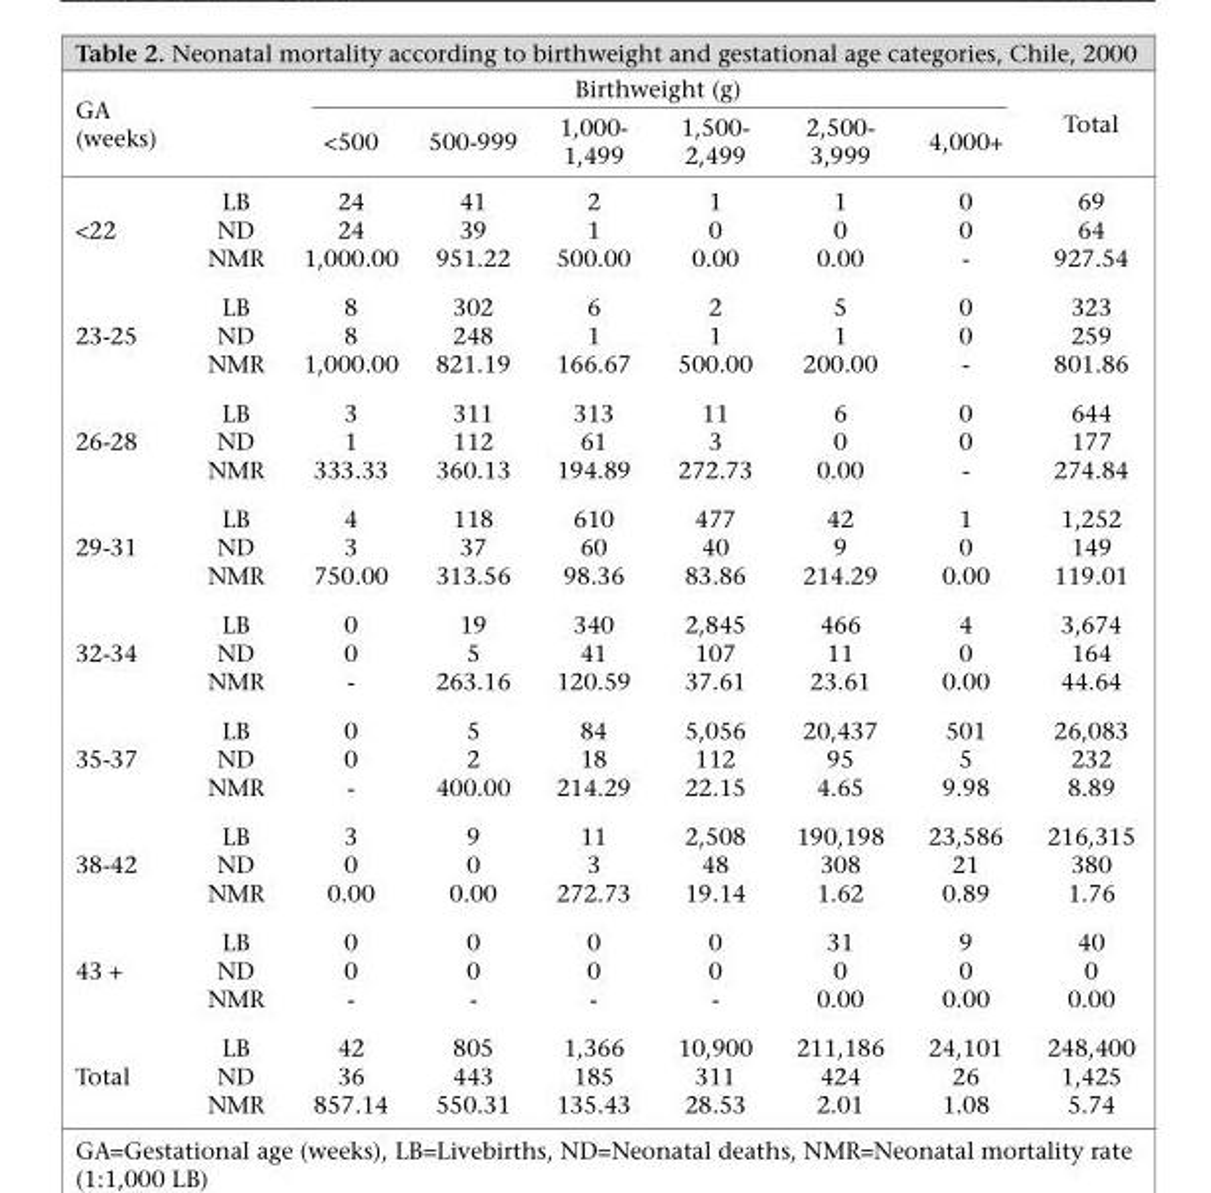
<table><thead><tr><td rowspan="2" colspan="2">GA (weeks)</td><td colspan="6">Birthweight (g)</td><td rowspan="3">Total 69 64 927.54</td></tr><tr><td rowspan="2">&lt;500 24 24 1,000.00</td><td rowspan="2">500-999 41 39 951.22</td><td rowspan="2">1,000- 1,499 2 1 500.00</td><td rowspan="2">1,500- 2,499 1 0 0.00</td><td rowspan="2">2,500- 3,999 1 0 0.00</td><td rowspan="2">4,000+ 0 0 -</td></tr><tr><td>&lt;22</td><td>LB ND NMR</td></tr></thead><tbody><tr><td>23-25</td><td>LB ND NMR</td><td>8 8 1,000.00</td><td>302 248 821.19</td><td>6 1 166.67</td><td>2 1 500.00</td><td>5 1 200.00</td><td>0 0 -</td><td>323 259 801.86</td></tr><tr><td>26-28</td><td>LB ND NMR</td><td>3 1 333.33</td><td>311 112 360.13</td><td>313 61 194.89</td><td>11 3 272.73</td><td>6 0 0.00</td><td>0 0 -</td><td>644 177 274.84</td></tr><tr><td>29-31</td><td>LB ND NMR</td><td>4 3 750.00</td><td>118 37 313.56</td><td>610 60 98.36</td><td>477 40 83.86</td><td>42 9 214.29</td><td>1 0 0.00</td><td>1,252 149 119.01</td></tr><tr><td>32-34</td><td>LB ND NMR</td><td>0 0 -</td><td>19 5 263.16</td><td>340 41 120.59</td><td>2,845 107 37.61</td><td>466 11 23.61</td><td>4 0 0.00</td><td>3,674 164 44.64</td></tr><tr><td>35-37</td><td>LB ND NMR</td><td>0 0 -</td><td>5 2 400.00</td><td>84 18 214.29</td><td>5,056 112 22.15</td><td>20,437 95 4.65</td><td>501 5 9.98</td><td>26,083 232 8.89</td></tr><tr><td>38-42</td><td>LB ND NMR</td><td>3 0 0.00</td><td>9 0 0.00</td><td>11 3 272.73</td><td>2,508 48 19.14</td><td>190,198 308 1.62</td><td>23,586 21 0.89</td><td>216,315 380 1.76</td></tr><tr><td>43 +</td><td>LB ND NMR</td><td>0 0 -</td><td>0 0 -</td><td>0 0 -</td><td>0 0 -</td><td>31 0 0.00</td><td>9 0 0.00</td><td>40 0 0.00</td></tr><tr><td>Total</td><td>LB ND NMR</td><td>42 36 857.14</td><td>805 443 550.31</td><td>1,366 185 135.43</td><td>10,900 311 28.53</td><td>211,186 424 2.01</td><td>24,101 26 1.08</td><td>248,400 1,425 5.74</td></tr></tbody></table>